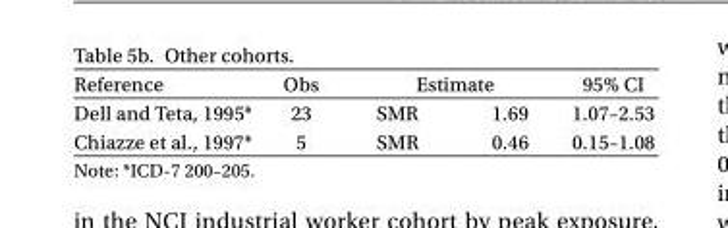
<table><thead><tr><td rowspan="2">Reference Dell and Teta, 1995*</td><td rowspan="2">Obs 23</td><td colspan="2">Estimate</td><td rowspan="2">95% CI 1.07–2.53</td></tr><tr><td>SMR</td><td>1.69</td></tr></thead><tbody><tr><td>Chiazze et al., 1997*</td><td>5</td><td>SMR</td><td>0.46</td><td>0.15–1.08</td></tr></tbody></table>